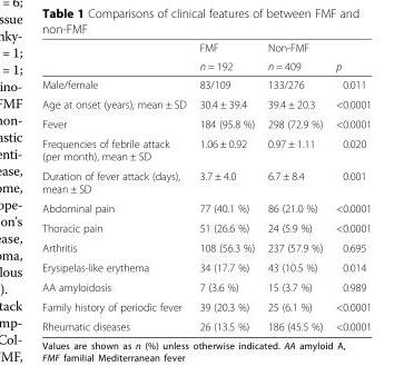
<table><thead><tr><td rowspan="2"></td><td rowspan="2">FMF n = 192</td><td rowspan="2">Non-FMF n = 409</td><td rowspan="2">p</td></tr><tr></tr></thead><tbody><tr><td>Male/female</td><td>83/109</td><td>133/276</td><td>0.011</td></tr><tr><td>Age at onset (years), mean ± SD</td><td>30.4 ± 39.4</td><td>39.4 ± 20.3</td><td>&lt;0.0001</td></tr><tr><td>Fever</td><td>184 (95.8 %)</td><td>298 (72.9 %)</td><td>&lt;0.0001</td></tr><tr><td>Frequencies of febrile attack (per month), mean ± SD</td><td>1.06 ± 0.92</td><td>0.97 ± 1.11</td><td>0.020</td></tr><tr><td>Duration of fever attack (days), mean ± SD</td><td>3.7 ± 4.0</td><td>6.7 ± 8.4</td><td>0.001</td></tr><tr><td>Abdominal pain</td><td>77 (40.1 %)</td><td>86 (21.0 %)</td><td>&lt;0.0001</td></tr><tr><td>Thoracic pain</td><td>51 (26.6 %)</td><td>24 (5.9 %)</td><td>&lt;0.0001</td></tr><tr><td>Arthritis</td><td>108 (56.3 %)</td><td>237 (57.9 %)</td><td>0.695</td></tr><tr><td>Erysipelas-like erythema</td><td>34 (17.7 %)</td><td>43 (10.5 %)</td><td>0.014</td></tr><tr><td>AA amyloidosis</td><td>7 (3.6 %)</td><td>15 (3.7 %)</td><td>0.989</td></tr><tr><td>Family history of periodic fever</td><td>39 (20.3 %)</td><td>25 (6.1 %)</td><td>&lt;0.0001</td></tr><tr><td>Rheumatic diseases</td><td>26 (13.5 %)</td><td>186 (45.5 %)</td><td>&lt;0.0001</td></tr></tbody></table>